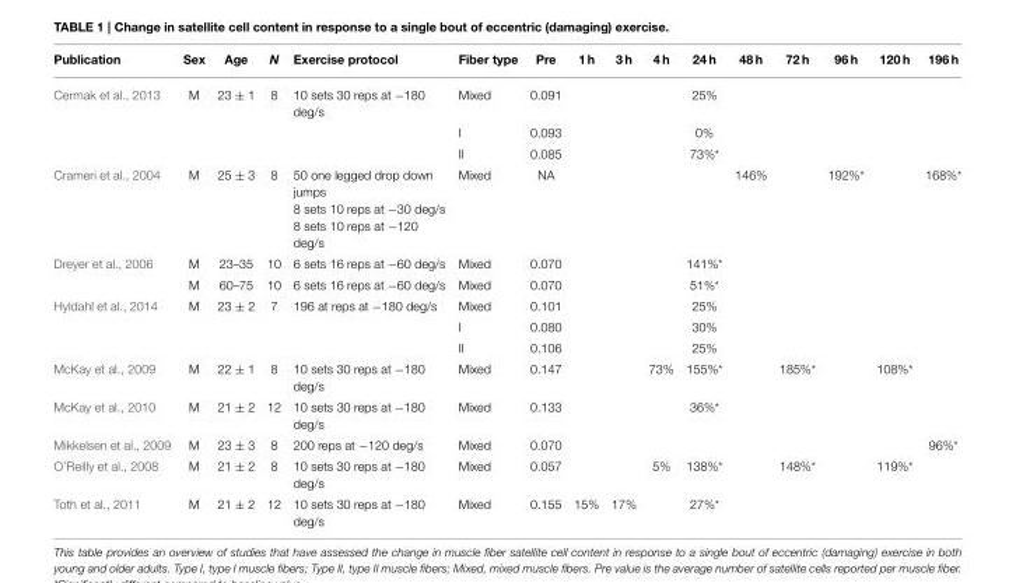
<table><thead><tr><td>Publication</td><td>Sex</td><td>Age</td><td>N</td><td>Exercise protocol</td><td>Fiber type</td><td>Pre</td><td>1 h</td><td>3 h</td><td>4 h</td><td>24 h</td><td>48 h</td><td>72 h</td><td>96 h</td><td>120 h</td><td>196 h</td></tr></thead><tbody><tr><td rowspan="3">Cermak et al., 2013</td><td>M</td><td>23 ± 1</td><td>8</td><td>10 sets 30 reps at −180 deg/s</td><td>Mixed</td><td>0.091</td><td></td><td></td><td></td><td>25%</td><td></td><td></td><td></td><td></td><td></td></tr><tr><td></td><td></td><td></td><td></td><td>I</td><td>0.093</td><td></td><td></td><td></td><td>0%</td><td></td><td></td><td></td><td></td><td></td></tr><tr><td></td><td></td><td></td><td></td><td>II</td><td>0.085</td><td></td><td></td><td></td><td>73%*</td><td></td><td></td><td></td><td></td><td></td></tr><tr><td>Crameri et al., 2004</td><td>M</td><td>25 ± 3</td><td>8</td><td>50 one legged drop down jumps 8 sets 10 reps at −30 deg/s 8 sets 10 reps at −120 deg/s</td><td>Mixed</td><td>NA</td><td></td><td></td><td></td><td></td><td>146%</td><td></td><td>192%*</td><td></td><td>168%*</td></tr><tr><td rowspan="2">Dreyer et al., 2006</td><td>M</td><td>23–35</td><td>10</td><td>6 sets 16 reps at −60 deg/s</td><td>Mixed</td><td>0.070</td><td></td><td></td><td></td><td>141%*</td><td></td><td></td><td></td><td></td><td></td></tr><tr><td>M</td><td>60–75</td><td>10</td><td>6 sets 16 reps at −60 deg/s</td><td>Mixed</td><td>0.070</td><td></td><td></td><td></td><td>51%*</td><td></td><td></td><td></td><td></td><td></td></tr><tr><td rowspan="3">Hyldahl et al., 2014</td><td>M</td><td>23 ± 2</td><td>7</td><td>196 at reps at −180 deg/s</td><td>Mixed</td><td>0.101</td><td></td><td></td><td></td><td>25%</td><td></td><td></td><td></td><td></td><td></td></tr><tr><td></td><td></td><td></td><td></td><td>I</td><td>0.080</td><td></td><td></td><td></td><td>30%</td><td></td><td></td><td></td><td></td><td></td></tr><tr><td></td><td></td><td></td><td></td><td>II</td><td>0.106</td><td></td><td></td><td></td><td>25%</td><td></td><td></td><td></td><td></td><td></td></tr><tr><td>McKay et al., 2009</td><td>M</td><td>22 ± 1</td><td>8</td><td>10 sets 30 reps at −180 deg/s</td><td>Mixed</td><td>0.147</td><td></td><td></td><td>73%</td><td>155%*</td><td></td><td>185%*</td><td></td><td>108%*</td><td></td></tr><tr><td>McKay et al., 2010</td><td>M</td><td>21 ± 2</td><td>12</td><td>10 sets 30 reps at −180 deg/s</td><td>Mixed</td><td>0.133</td><td></td><td></td><td></td><td>36%*</td><td></td><td></td><td></td><td></td><td></td></tr><tr><td>Mikkelsen et al., 2009</td><td>M</td><td>23 ± 3</td><td>8</td><td>200 reps at −120 deg/s</td><td>Mixed</td><td>0.070</td><td></td><td></td><td></td><td></td><td></td><td></td><td></td><td></td><td>96%*</td></tr><tr><td>O’Reilly et al., 2008</td><td>M</td><td>21 ± 2</td><td>8</td><td>10 sets 30 reps at −180 deg/s</td><td>Mixed</td><td>0.057</td><td></td><td></td><td>5%</td><td>138%*</td><td></td><td>148%*</td><td></td><td>119%*</td><td></td></tr><tr><td>Toth et al., 2011</td><td>M</td><td>21 ± 2</td><td>12</td><td>10 sets 30 reps at −180 deg/s</td><td>Mixed</td><td>0.155</td><td>15%</td><td>17%</td><td></td><td>27%*</td><td></td><td></td><td></td><td></td><td></td></tr></tbody></table>